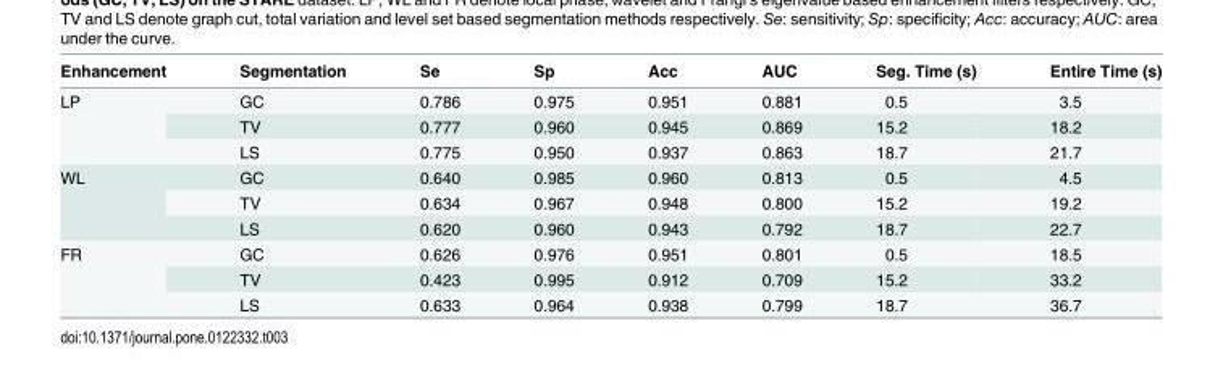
<table><thead><tr><td>Enhancement</td><td>Segmentation</td><td>Se</td><td>Sp</td><td>Acc</td><td>AUC</td><td>Seg. Time (s)</td><td>Entire Time (s)</td></tr></thead><tbody><tr><td rowspan="3">LP</td><td>GC</td><td>0.786</td><td>0.975</td><td>0.951</td><td>0.881</td><td>0.5</td><td>3.5</td></tr><tr><td>TV</td><td>0.777</td><td>0.960</td><td>0.945</td><td>0.869</td><td>15.2</td><td>18.2</td></tr><tr><td>LS</td><td>0.775</td><td>0.950</td><td>0.937</td><td>0.863</td><td>18.7</td><td>21.7</td></tr><tr><td rowspan="3">WL</td><td>GC</td><td>0.640</td><td>0.985</td><td>0.960</td><td>0.813</td><td>0.5</td><td>4.5</td></tr><tr><td>TV</td><td>0.634</td><td>0.967</td><td>0.948</td><td>0.800</td><td>15.2</td><td>19.2</td></tr><tr><td>LS</td><td>0.620</td><td>0.960</td><td>0.943</td><td>0.792</td><td>18.7</td><td>22.7</td></tr><tr><td rowspan="3">FR</td><td>GC</td><td>0.626</td><td>0.976</td><td>0.951</td><td>0.801</td><td>0.5</td><td>18.5</td></tr><tr><td>TV</td><td>0.423</td><td>0.995</td><td>0.912</td><td>0.709</td><td>15.2</td><td>33.2</td></tr><tr><td>LS</td><td>0.633</td><td>0.964</td><td>0.938</td><td>0.799</td><td>18.7</td><td>36.7</td></tr></tbody></table>